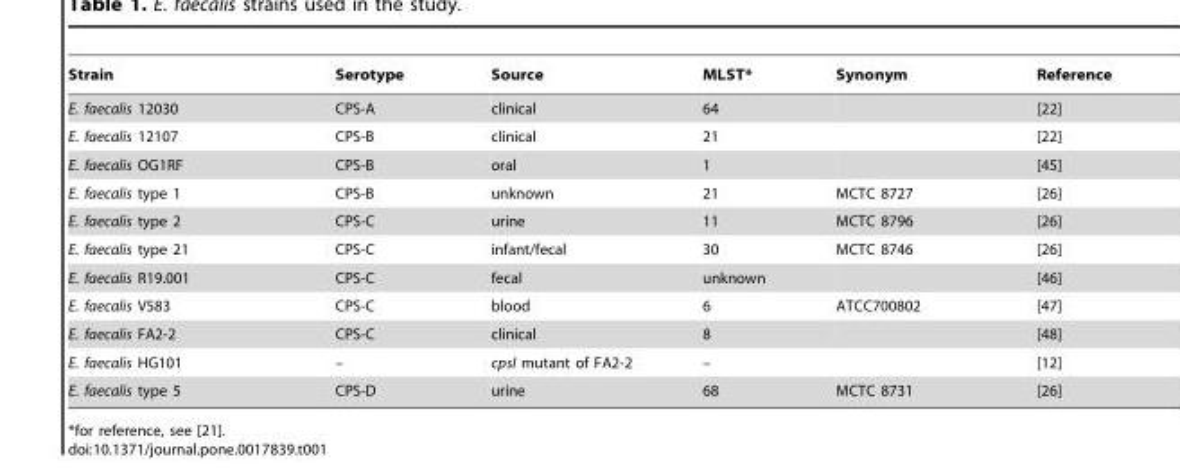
<table><thead><tr><td>Strain</td><td>Serotype</td><td>Source</td><td>MLST*</td><td>Synonym</td><td>Reference</td></tr></thead><tbody><tr><td>E. faecalis 12030</td><td>CPS-A</td><td>clinical</td><td>64</td><td></td><td>[22]</td></tr><tr><td>E. faecalis 12107</td><td>CPS-B</td><td>clinical</td><td>21</td><td></td><td>[22]</td></tr><tr><td>E. faecalis OG1RF</td><td>CPS-B</td><td>oral</td><td>1</td><td></td><td>[45]</td></tr><tr><td>E. faecalis type 1</td><td>CPS-B</td><td>unknown</td><td>21</td><td>MCTC 8727</td><td>[26]</td></tr><tr><td>E. faecalis type 2</td><td>CPS-C</td><td>urine</td><td>11</td><td>MCTC 8796</td><td>[26]</td></tr><tr><td>E. faecalis type 21</td><td>CPS-C</td><td>infant/fecal</td><td>30</td><td>MCTC 8746</td><td>[26]</td></tr><tr><td>E. faecalis R19.001</td><td>CPS-C</td><td>fecal</td><td>unknown</td><td></td><td>[46]</td></tr><tr><td>E. faecalis V583</td><td>CPS-C</td><td>blood</td><td>6</td><td>ATCC700802</td><td>[47]</td></tr><tr><td>E. faecalis FA2-2</td><td>CPS-C</td><td>clinical</td><td>8</td><td></td><td>[48]</td></tr><tr><td>E. faecalis HG101</td><td>–</td><td>cpsI mutant of FA2-2</td><td>–</td><td></td><td>[12]</td></tr><tr><td>E. faecalis type 5</td><td>CPS-D</td><td>urine</td><td>68</td><td>MCTC 8731</td><td>[26]</td></tr></tbody></table>